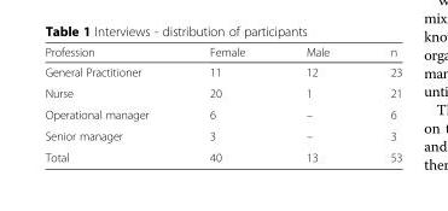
<table><thead><tr><td>Profession</td><td>Female</td><td>Male</td><td>n</td></tr></thead><tbody><tr><td>General Practitioner</td><td>11</td><td>12</td><td>23</td></tr><tr><td>Nurse</td><td>20</td><td>1</td><td>21</td></tr><tr><td>Operational manager</td><td>6</td><td>–</td><td>6</td></tr><tr><td>Senior manager</td><td>3</td><td>–</td><td>3</td></tr><tr><td>Total</td><td>40</td><td>13</td><td>53</td></tr></tbody></table>